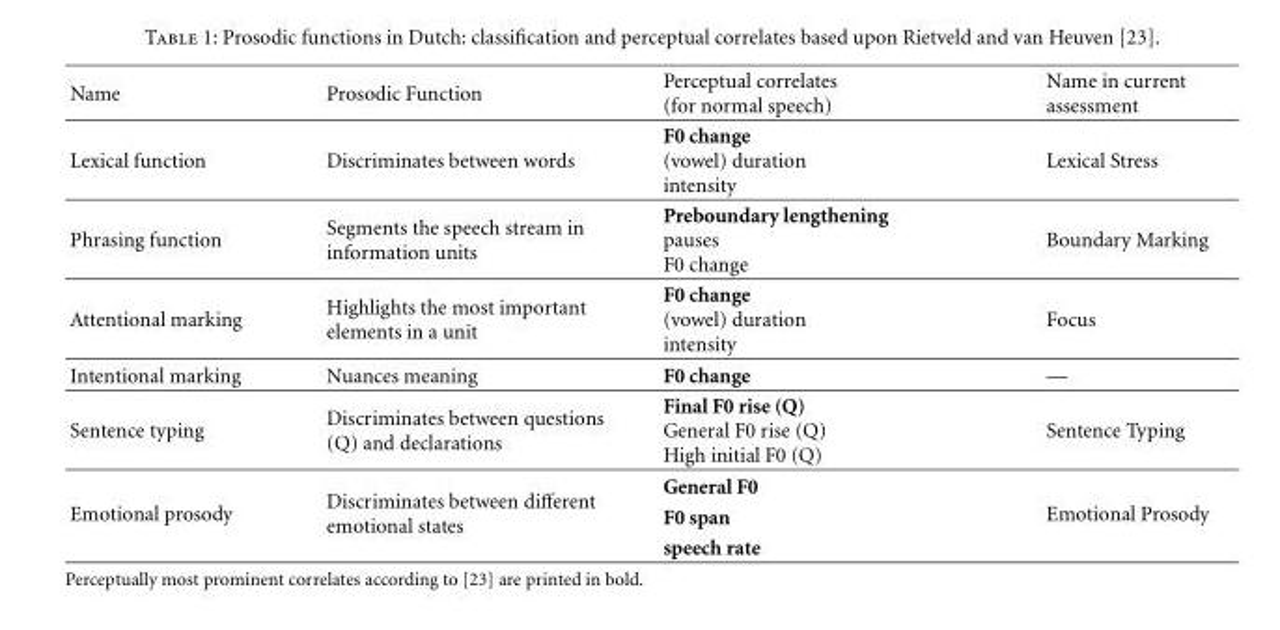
<table><thead><tr><td>Name</td><td>Prosodic Function</td><td>Perceptual correlates (for normal speech)</td><td>Name in current assessment</td></tr></thead><tbody><tr><td>Lexical function</td><td>Discriminates between words</td><td>F0 change (vowel) duration intensity</td><td>Lexical Stress</td></tr><tr><td>Phrasing function</td><td>Segments the speech stream in information units</td><td>Preboundary lengthening pauses F0 change</td><td>Boundary Marking</td></tr><tr><td>Attentional marking</td><td>Highlights the most important elements in a unit</td><td>F0 change (vowel) duration intensity</td><td>Focus</td></tr><tr><td>Intentional marking</td><td>Nuances meaning</td><td>F0 change</td><td>—</td></tr><tr><td>Sentence typing</td><td>Discriminates between questions (Q) and declarations</td><td>Final F0 rise (Q) General F0 rise (Q) High initial F0 (Q)</td><td>Sentence Typing</td></tr><tr><td rowspan="3">Emotional prosody</td><td rowspan="3">Discriminates between different emotional states</td><td>General F0</td><td rowspan="3">Emotional Prosody</td></tr><tr><td>F0 span</td></tr><tr><td>speech rate</td></tr></tbody></table>